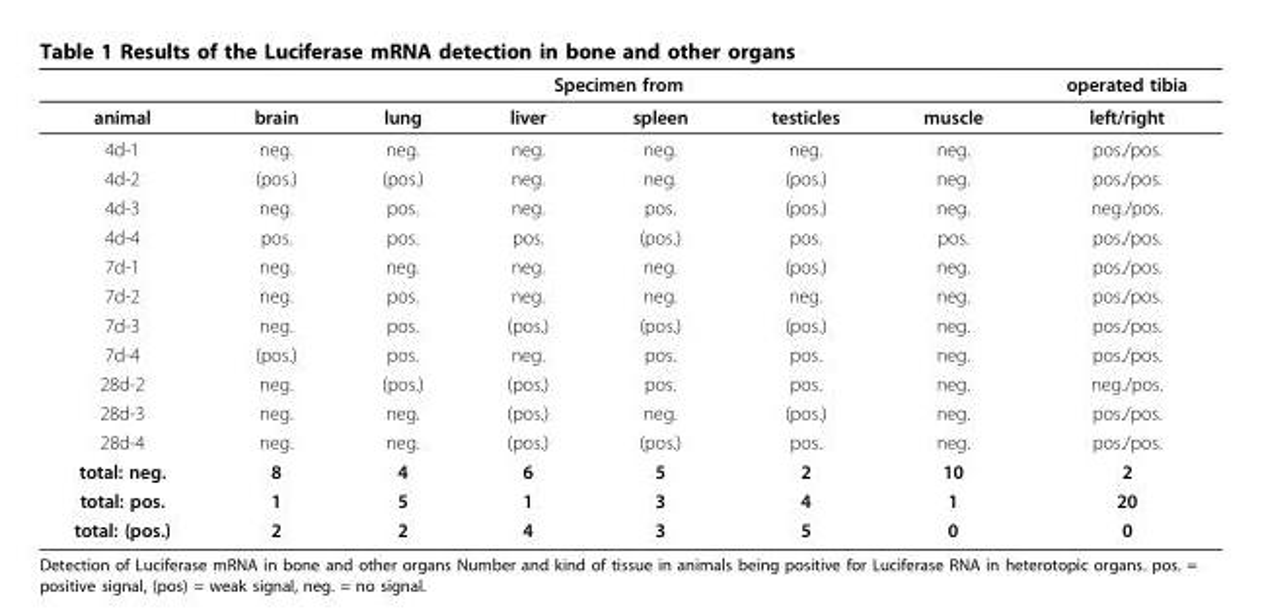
<table><thead><tr><td rowspan="2">animal</td><td colspan="6">Specimen from</td><td rowspan="2">operated tibia left/right</td></tr><tr><td>brain</td><td>lung</td><td>liver</td><td>spleen</td><td>testicles</td><td>muscle</td></tr></thead><tbody><tr><td>4d-1</td><td>neg.</td><td>neg.</td><td>neg.</td><td>neg.</td><td>neg.</td><td>neg.</td><td>pos./pos.</td></tr><tr><td>4d-2</td><td>(pos.)</td><td>(pos.)</td><td>neg.</td><td>neg.</td><td>(pos.)</td><td>neg.</td><td>pos./pos.</td></tr><tr><td>4d-3</td><td>neg.</td><td>pos.</td><td>neg.</td><td>pos.</td><td>(pos.)</td><td>neg.</td><td>neg./pos.</td></tr><tr><td>4d-4</td><td>pos.</td><td>pos.</td><td>pos.</td><td>(pos.)</td><td>pos.</td><td>pos.</td><td>pos./pos.</td></tr><tr><td>7d-1</td><td>neg.</td><td>neg.</td><td>neg.</td><td>neg.</td><td>(pos.)</td><td>neg.</td><td>pos./pos.</td></tr><tr><td>7d-2</td><td>neg.</td><td>pos.</td><td>neg.</td><td>neg.</td><td>neg.</td><td>neg.</td><td>pos./pos.</td></tr><tr><td>7d-3</td><td>neg.</td><td>pos.</td><td>(pos.)</td><td>(pos.)</td><td>(pos.)</td><td>neg.</td><td>pos./pos.</td></tr><tr><td>7d-4</td><td>(pos.)</td><td>pos.</td><td>neg.</td><td>pos.</td><td>pos.</td><td>neg.</td><td>pos./pos.</td></tr><tr><td>28d-2</td><td>neg.</td><td>(pos.)</td><td>(pos.)</td><td>pos.</td><td>pos.</td><td>neg.</td><td>neg./pos.</td></tr><tr><td>28d-3</td><td>neg.</td><td>neg.</td><td>(pos.)</td><td>neg.</td><td>(pos.)</td><td>neg.</td><td>pos./pos.</td></tr><tr><td>28d-4</td><td>neg.</td><td>neg.</td><td>(pos.)</td><td>(pos.)</td><td>pos.</td><td>neg.</td><td>pos./pos.</td></tr><tr><td>total: neg.</td><td>8</td><td>4</td><td>6</td><td>5</td><td>2</td><td>10</td><td>2</td></tr><tr><td>total: pos.</td><td>1</td><td>5</td><td>1</td><td>3</td><td>4</td><td>1</td><td>20</td></tr><tr><td>total: (pos.)</td><td>2</td><td>2</td><td>4</td><td>3</td><td>5</td><td>0</td><td>0</td></tr></tbody></table>